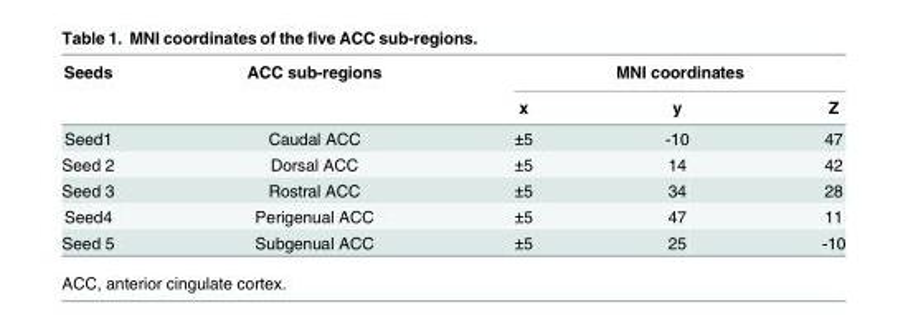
<table><thead><tr><td rowspan="2">Seeds</td><td rowspan="2">ACC sub-regions</td><td colspan="3">MNI coordinates</td></tr><tr><td>x</td><td>y</td><td>Z</td></tr></thead><tbody><tr><td>Seed1</td><td>Caudal ACC</td><td>±5</td><td>-10</td><td>47</td></tr><tr><td>Seed 2</td><td>Dorsal ACC</td><td>±5</td><td>14</td><td>42</td></tr><tr><td>Seed 3</td><td>Rostral ACC</td><td>±5</td><td>34</td><td>28</td></tr><tr><td>Seed4</td><td>Perigenual ACC</td><td>±5</td><td>47</td><td>11</td></tr><tr><td>Seed 5</td><td>Subgenual ACC</td><td>±5</td><td>25</td><td>-10</td></tr></tbody></table>